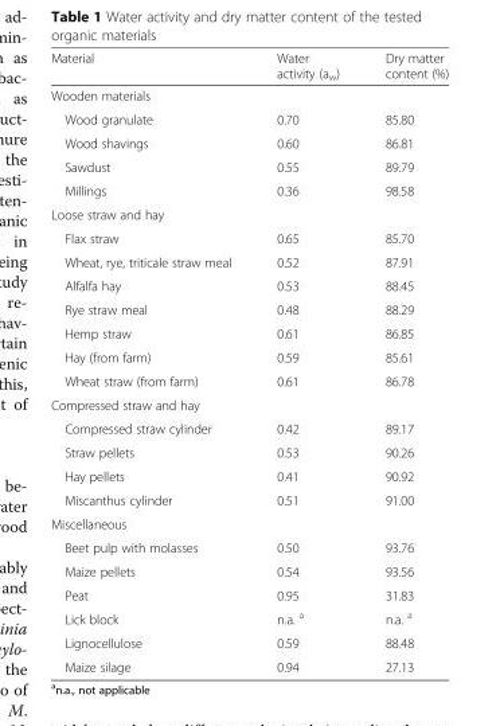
<table><thead><tr><td>Material</td><td>Water activity (a<sub>w</sub>)</td><td>Dry matter content (%)</td></tr></thead><tbody><tr><td colspan="3">Wooden materials</td></tr><tr><td>Wood granulate</td><td>0.70</td><td>85.80</td></tr><tr><td>Wood shavings</td><td>0.60</td><td>86.81</td></tr><tr><td>Sawdust</td><td>0.55</td><td>89.79</td></tr><tr><td>Millings</td><td>0.36</td><td>98.58</td></tr><tr><td colspan="3">Loose straw and hay</td></tr><tr><td>Flax straw</td><td>0.65</td><td>85.70</td></tr><tr><td>Wheat, rye, triticale straw meal</td><td>0.52</td><td>87.91</td></tr><tr><td>Alfalfa hay</td><td>0.53</td><td>88.45</td></tr><tr><td>Rye straw meal</td><td>0.48</td><td>88.29</td></tr><tr><td>Hemp straw</td><td>0.61</td><td>86.85</td></tr><tr><td>Hay (from farm)</td><td>0.59</td><td>85.61</td></tr><tr><td>Wheat straw (from farm)</td><td>0.61</td><td>86.78</td></tr><tr><td colspan="3">Compressed straw and hay</td></tr><tr><td>Compressed straw cylinder</td><td>0.42</td><td>89.17</td></tr><tr><td>Straw pellets</td><td>0.53</td><td>90.26</td></tr><tr><td>Hay pellets</td><td>0.41</td><td>90.92</td></tr><tr><td>Miscanthus cylinder</td><td>0.51</td><td>91.00</td></tr><tr><td colspan="3">Miscellaneous</td></tr><tr><td>Beet pulp with molasses</td><td>0.50</td><td>93.76</td></tr><tr><td>Maize pellets</td><td>0.54</td><td>93.56</td></tr><tr><td>Peat</td><td>0.95</td><td>31.83</td></tr><tr><td>Lick block</td><td>n.a. <sup>a</sup></td><td>n.a. <sup>a</sup></td></tr><tr><td>Lignocellulose</td><td>0.59</td><td>88.48</td></tr><tr><td>Maize silage</td><td>0.94</td><td>27.13</td></tr></tbody></table>